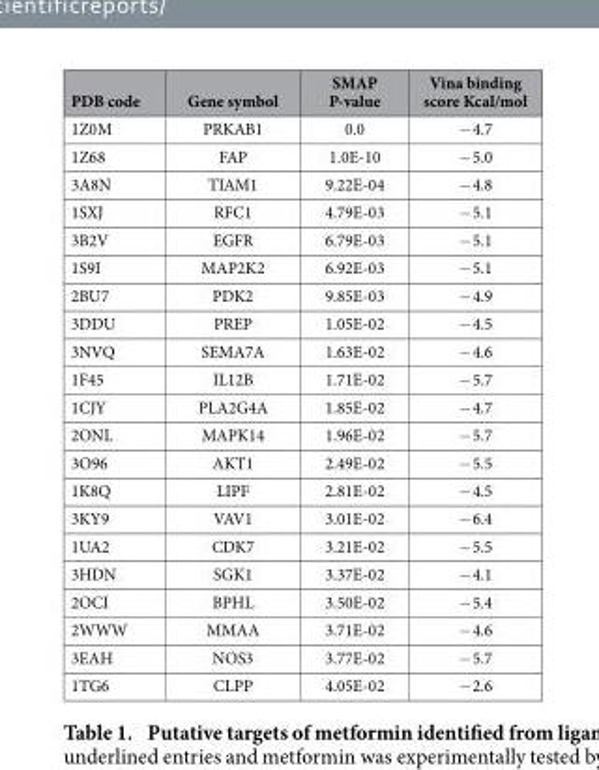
<table><thead><tr><td>PDB code</td><td>Gene symbol</td><td>SMAP P-value</td><td>Vina binding score Kcal/mol</td></tr></thead><tbody><tr><td>1Z0M</td><td>PRKAB1</td><td>0.0</td><td>− 4.7</td></tr><tr><td>1Z68</td><td>FAP</td><td>1.0E-10</td><td>− 5.0</td></tr><tr><td>3A8N</td><td>TIAM1</td><td>9.22E-04</td><td>− 4.8</td></tr><tr><td>1SXJ</td><td>RFC1</td><td>4.79E-03</td><td>− 5.1</td></tr><tr><td>3B2V</td><td>EGFR</td><td>6.79E-03</td><td>− 5.1</td></tr><tr><td>1S9I</td><td>MAP2K2</td><td>6.92E-03</td><td>− 5.1</td></tr><tr><td>2BU7</td><td>PDK2</td><td>9.85E-03</td><td>− 4.9</td></tr><tr><td>3DDU</td><td>PREP</td><td>1.05E-02</td><td>− 4.5</td></tr><tr><td>3NVQ</td><td>SEMA7A</td><td>1.63E-02</td><td>− 4.6</td></tr><tr><td>1F45</td><td>IL12B</td><td>1.71E-02</td><td>− 5.7</td></tr><tr><td>1CJY</td><td>PLA2G4A</td><td>1.85E-02</td><td>− 4.7</td></tr><tr><td>2ONL</td><td>MAPK14</td><td>1.96E-02</td><td>− 5.7</td></tr><tr><td>3O96</td><td>AKT1</td><td>2.49E-02</td><td>− 5.5</td></tr><tr><td>1K8Q</td><td>LIPF</td><td>2.81E-02</td><td>− 4.5</td></tr><tr><td>3KY9</td><td>VAV1</td><td>3.01E-02</td><td>− 6.4</td></tr><tr><td>1UA2</td><td>CDK7</td><td>3.21E-02</td><td>− 5.5</td></tr><tr><td>3HDN</td><td>SGK1</td><td>3.37E-02</td><td>− 4.1</td></tr><tr><td>2OCI</td><td>BPHL</td><td>3.50E-02</td><td>− 5.4</td></tr><tr><td>2WWW</td><td>MMAA</td><td>3.71E-02</td><td>− 4.6</td></tr><tr><td>3EAH</td><td>NOS3</td><td>3.77E-02</td><td>− 5.7</td></tr><tr><td>1TG6</td><td>CLPP</td><td>4.05E-02</td><td>− 2.6</td></tr></tbody></table>